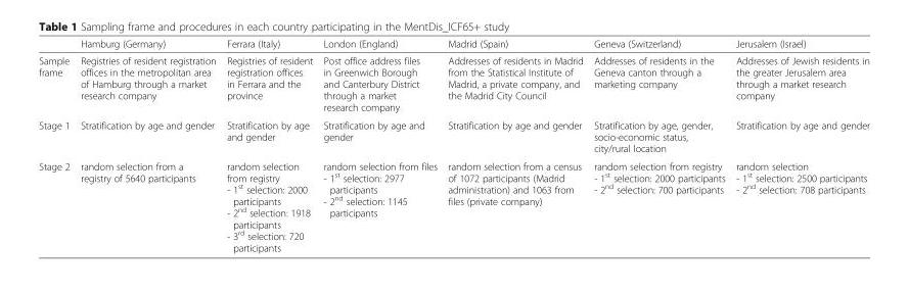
<table><thead><tr><td></td><td>Hamburg (Germany)</td><td>Ferrara (Italy)</td><td>London (England)</td><td>Madrid (Spain)</td><td>Geneva (Switzerland)</td><td>Jerusalem (Israel)</td></tr></thead><tbody><tr><td>Sample frame</td><td>Registries of resident registration offices in the metropolitan area of Hamburg through a market research company</td><td>Registries of resident registration offices in Ferrara and the province</td><td>Post office address files in Greenwich Borough and Canterbury District through a market research company</td><td>Addresses of residents in Madrid from the Statistical Institute of Madrid, a private company, and the Madrid City Council</td><td>Addresses of residents in the Geneva canton through a marketing company</td><td>Addresses of Jewish residents in the greater Jerusalem area through a market research company</td></tr><tr><td>Stage 1</td><td>Stratification by age and gender</td><td>Stratification by age and gender</td><td>Stratification by age and gender</td><td>Stratification by age and gender</td><td>Stratification by age, gender, socio-economic status, city/rural location</td><td>Stratification by age and gender</td></tr><tr><td>Stage 2</td><td>random selection from a registry of 5640 participants</td><td>random selection from registry - 1<sup>st</sup> selection: 2000 participants - 2<sup>nd</sup> selection: 1918 participants - 3<sup>rd</sup> selection: 720 participants</td><td>random selection from files - 1<sup>st</sup> selection: 2977 participants - 2<sup>nd</sup> selection: 1145 participants</td><td>random selection from a census of 1072 participants (Madrid administration) and 1063 from files (private company)</td><td>random selection from registry - 1<sup>st</sup> selection: 2000 participants - 2<sup>nd</sup> selection: 700 participants</td><td>random selection - 1<sup>st</sup> selection: 2500 participants - 2<sup>nd</sup> selection: 708 participants</td></tr></tbody></table>